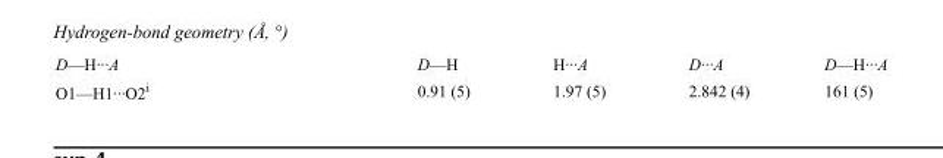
<table><tbody><tr><td>D—H···A</td><td>D—H</td><td>H···A</td><td>D···A</td><td>D—H···A</td></tr><tr><td>O1—H1···O2<sup>i</sup></td><td>0.91 (5)</td><td>1.97 (5)</td><td>2.842 (4)</td><td>161 (5)</td></tr></tbody></table>